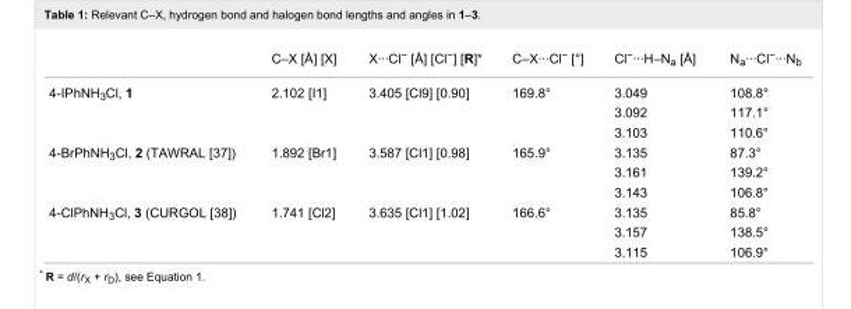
<table><thead><tr><td></td><td>C–X [Å] [X]</td><td>X···Cl<sup>−</sup> [Å] [Cl<sup>−</sup>] [R]*</td><td>C–X···Cl<sup>−</sup> [°]</td><td>Cl<sup>−</sup>···H–N<sub>a</sub> [Å]</td><td>N<sub>a</sub>···Cl<sup>−</sup>···N<sub>b</sub></td></tr></thead><tbody><tr><td rowspan="3">4-IPhNH<sub>3</sub>Cl, 1</td><td>2.102 [I1]</td><td>3.405 [Cl9] [0.90]</td><td>169.8°</td><td>3.049</td><td>108.8°</td></tr><tr><td></td><td></td><td></td><td>3.092</td><td>117.1°</td></tr><tr><td></td><td></td><td></td><td>3.103</td><td>110.6°</td></tr><tr><td rowspan="3">4-BrPhNH<sub>3</sub>Cl, 2 (TAWRAL [37])</td><td>1.892 [Br1]</td><td>3.587 [Cl1] [0.98]</td><td>165.9°</td><td>3.135</td><td>87.3°</td></tr><tr><td></td><td></td><td></td><td>3.161</td><td>139.2°</td></tr><tr><td></td><td></td><td></td><td>3.143</td><td>106.8°</td></tr><tr><td rowspan="3">4-ClPhNH<sub>3</sub>Cl, 3 (CURGOL [38])</td><td>1.741 [Cl2]</td><td>3.635 [Cl1] [1.02]</td><td>166.6°</td><td>3.135</td><td>85.8°</td></tr><tr><td></td><td></td><td></td><td>3.157</td><td>138.5°</td></tr><tr><td></td><td></td><td></td><td>3.115</td><td>106.9°</td></tr></tbody></table>